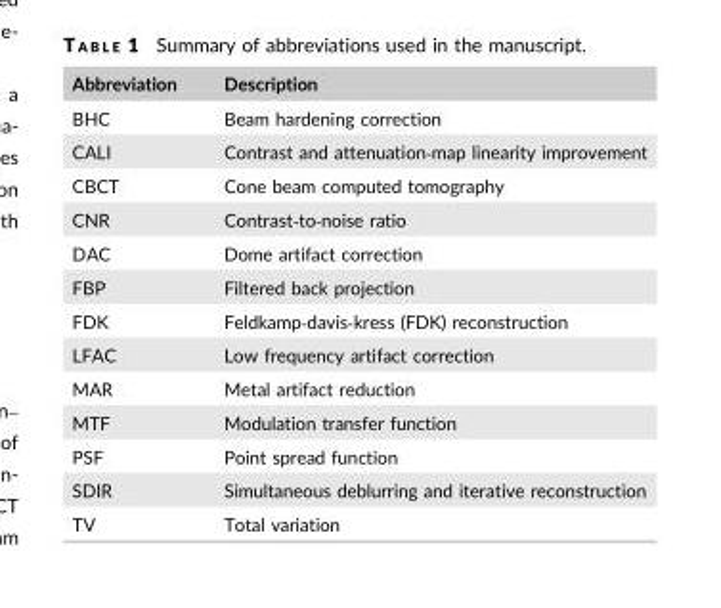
<table><thead><tr><td>Abbreviation</td><td>Description</td></tr></thead><tbody><tr><td>BHC</td><td>Beam hardening correction</td></tr><tr><td>CALI</td><td>Contrast and attenuation‐map linearity improvement</td></tr><tr><td>CBCT</td><td>Cone beam computed tomography</td></tr><tr><td>CNR</td><td>Contrast‐to‐noise ratio</td></tr><tr><td>DAC</td><td>Dome artifact correction</td></tr><tr><td>FBP</td><td>Filtered back projection</td></tr><tr><td>FDK</td><td>Feldkamp‐davis‐kress (FDK) reconstruction</td></tr><tr><td>LFAC</td><td>Low frequency artifact correction</td></tr><tr><td>MAR</td><td>Metal artifact reduction</td></tr><tr><td>MTF</td><td>Modulation transfer function</td></tr><tr><td>PSF</td><td>Point spread function</td></tr><tr><td>SDIR</td><td>Simultaneous deblurring and iterative reconstruction</td></tr><tr><td>TV</td><td>Total variation</td></tr></tbody></table>